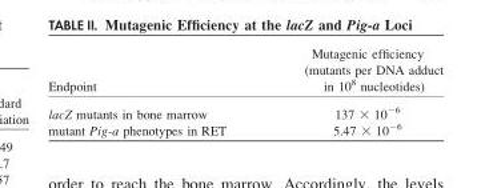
<table><thead><tr><td>Endpoint</td><td>Mutagenic efficiency (mutants per DNA adduct in 10<sup>8</sup> nucleotides)</td></tr></thead><tbody><tr><td>lacZ mutants in bone marrow</td><td>137 × 10<sup>−6</sup></td></tr><tr><td>mutant Pig-a phenotypes in RET</td><td>5.47 × 10<sup>−6</sup></td></tr></tbody></table>